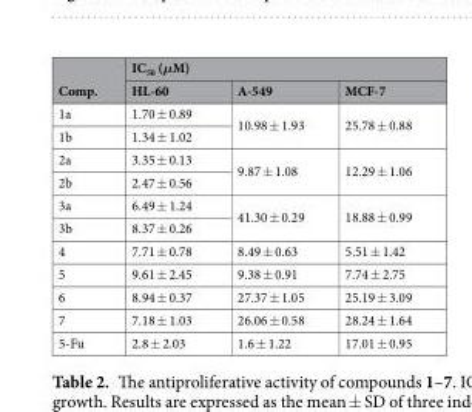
<table><thead><tr><td rowspan="2">Comp.</td><td colspan="3">IC<sub>50</sub> (μM)</td></tr><tr><td>HL-60</td><td>A-549</td><td>MCF-7</td></tr></thead><tbody><tr><td>1a</td><td>1.70 ± 0.89</td><td rowspan="2">10.98 ± 1.93</td><td rowspan="2">25.78 ± 0.88</td></tr><tr><td>1b</td><td>1.34 ± 1.02</td></tr><tr><td>2a</td><td>3.35 ± 0.13</td><td rowspan="2">9.87 ± 1.08</td><td rowspan="2">12.29 ± 1.06</td></tr><tr><td>2b</td><td>2.47 ± 0.56</td></tr><tr><td>3a</td><td>6.49 ± 1.24</td><td rowspan="2">41.30 ± 0.29</td><td rowspan="2">18.88 ± 0.99</td></tr><tr><td>3b</td><td>8.37 ± 0.26</td></tr><tr><td>4</td><td>7.71 ± 0.78</td><td>8.49 ± 0.63</td><td>5.51 ± 1.42</td></tr><tr><td>5</td><td>9.61 ± 2.45</td><td>9.38 ± 0.91</td><td>7.74 ± 2.75</td></tr><tr><td>6</td><td>8.94 ± 0.37</td><td>27.37 ± 1.05</td><td>25.19 ± 3.09</td></tr><tr><td>7</td><td>7.18 ± 1.03</td><td>26.06 ± 0.58</td><td>28.24 ± 1.64</td></tr><tr><td>5-Fu</td><td>2.8 ± 2.03</td><td>1.6 ± 1.22</td><td>17.01 ± 0.95</td></tr></tbody></table>